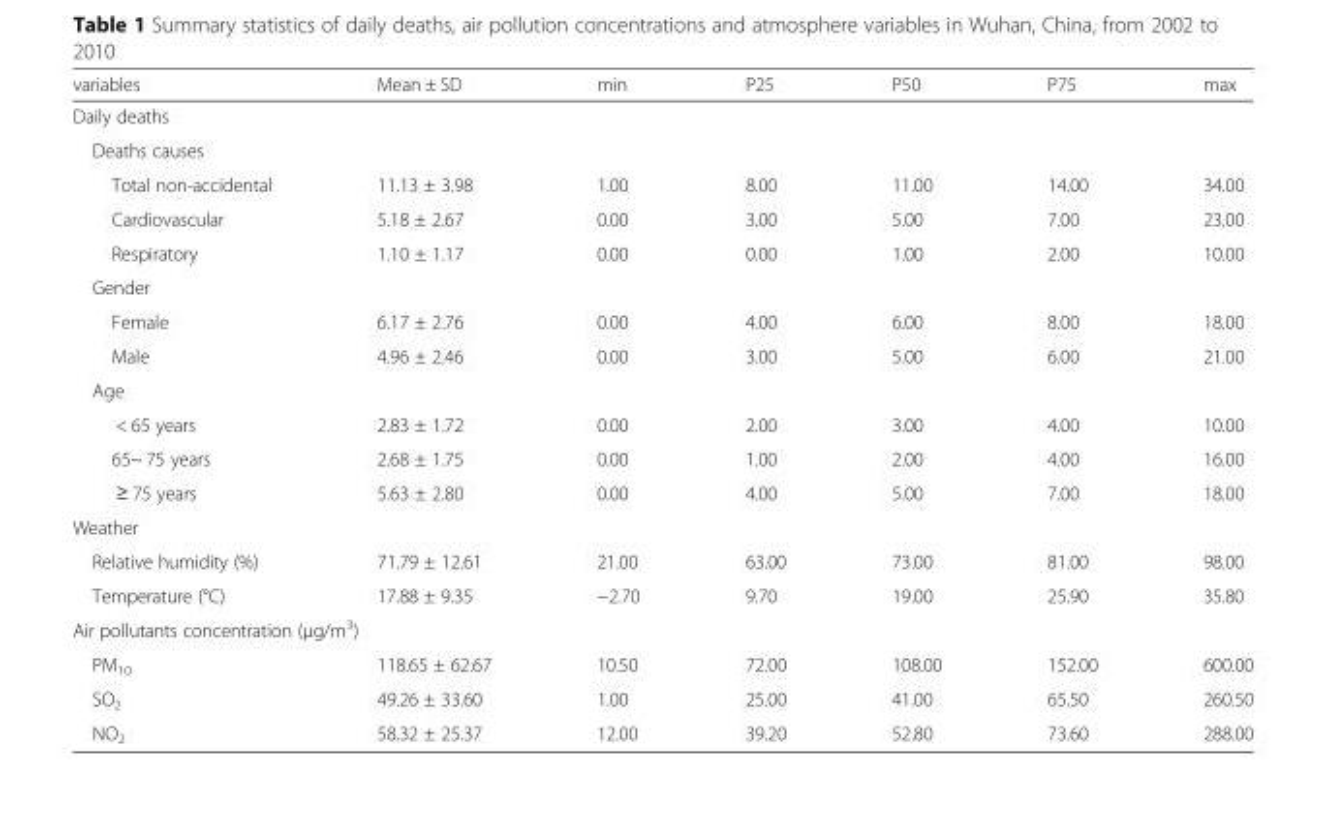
<table><thead><tr><td>variables</td><td>Mean ± SD</td><td>min</td><td>P25</td><td>P50</td><td>P75</td><td>max</td></tr></thead><tbody><tr><td colspan="7">Daily deaths</td></tr><tr><td colspan="7">Deaths causes</td></tr><tr><td>Total non-accidental</td><td>11.13 ± 3.98</td><td>1.00</td><td>8.00</td><td>11.00</td><td>14.00</td><td>34.00</td></tr><tr><td>Cardiovascular</td><td>5.18 ± 2.67</td><td>0.00</td><td>3.00</td><td>5.00</td><td>7.00</td><td>23.00</td></tr><tr><td>Respiratory</td><td>1.10 ± 1.17</td><td>0.00</td><td>0.00</td><td>1.00</td><td>2.00</td><td>10.00</td></tr><tr><td colspan="7">Gender</td></tr><tr><td>Female</td><td>6.17 ± 2.76</td><td>0.00</td><td>4.00</td><td>6.00</td><td>8.00</td><td>18.00</td></tr><tr><td>Male</td><td>4.96 ± 2.46</td><td>0.00</td><td>3.00</td><td>5.00</td><td>6.00</td><td>21.00</td></tr><tr><td colspan="7">Age</td></tr><tr><td>&lt; 65 years</td><td>2.83 ± 1.72</td><td>0.00</td><td>2.00</td><td>3.00</td><td>4.00</td><td>10.00</td></tr><tr><td>65~ 75 years</td><td>2.68 ± 1.75</td><td>0.00</td><td>1.00</td><td>2.00</td><td>4.00</td><td>16.00</td></tr><tr><td>≥ 75 years</td><td>5.63 ± 2.80</td><td>0.00</td><td>4.00</td><td>5.00</td><td>7.00</td><td>18.00</td></tr><tr><td colspan="7">Weather</td></tr><tr><td>Relative humidity (%)</td><td>71.79 ± 12.61</td><td>21.00</td><td>63.00</td><td>73.00</td><td>81.00</td><td>98.00</td></tr><tr><td>Temperature (°C)</td><td>17.88 ± 9.35</td><td>−2.70</td><td>9.70</td><td>19.00</td><td>25.90</td><td>35.80</td></tr><tr><td colspan="7">Air pollutants concentration (μg/m<sup>3</sup>)</td></tr><tr><td>PM<sub>10</sub></td><td>118.65 ± 62.67</td><td>10.50</td><td>72.00</td><td>108.00</td><td>152.00</td><td>600.00</td></tr><tr><td>SO<sub>2</sub></td><td>49.26 ± 33.60</td><td>1.00</td><td>25.00</td><td>41.00</td><td>65.50</td><td>260.50</td></tr><tr><td>NO<sub>2</sub></td><td>58.32 ± 25.37</td><td>12.00</td><td>39.20</td><td>52.80</td><td>73.60</td><td>288.00</td></tr></tbody></table>